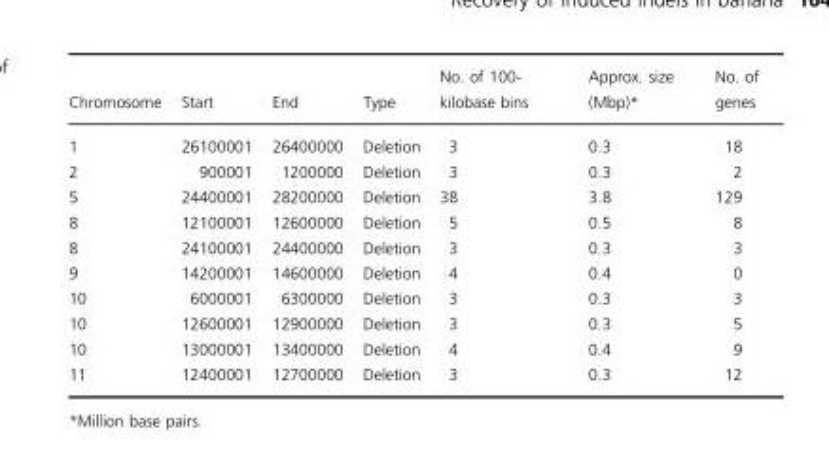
<table><thead><tr><td>Chromosome</td><td>Start</td><td>End</td><td>Type</td><td>No. of 100- kilobase bins</td><td>Approx. size (Mbp)*</td><td>No. of genes</td></tr></thead><tbody><tr><td>1</td><td>26100001</td><td>26400000</td><td>Deletion</td><td>3</td><td>0.3</td><td>18</td></tr><tr><td>2</td><td>900001</td><td>1200000</td><td>Deletion</td><td>3</td><td>0.3</td><td>2</td></tr><tr><td>5</td><td>24400001</td><td>28200000</td><td>Deletion</td><td>38</td><td>3.8</td><td>129</td></tr><tr><td>8</td><td>12100001</td><td>12600000</td><td>Deletion</td><td>5</td><td>0.5</td><td>8</td></tr><tr><td>8</td><td>24100001</td><td>24400000</td><td>Deletion</td><td>3</td><td>0.3</td><td>3</td></tr><tr><td>9</td><td>14200001</td><td>14600000</td><td>Deletion</td><td>4</td><td>0.4</td><td>0</td></tr><tr><td>10</td><td>6000001</td><td>6300000</td><td>Deletion</td><td>3</td><td>0.3</td><td>3</td></tr><tr><td>10</td><td>12600001</td><td>12900000</td><td>Deletion</td><td>3</td><td>0.3</td><td>5</td></tr><tr><td>10</td><td>13000001</td><td>13400000</td><td>Deletion</td><td>4</td><td>0.4</td><td>9</td></tr><tr><td>11</td><td>12400001</td><td>12700000</td><td>Deletion</td><td>3</td><td>0.3</td><td>12</td></tr></tbody></table>